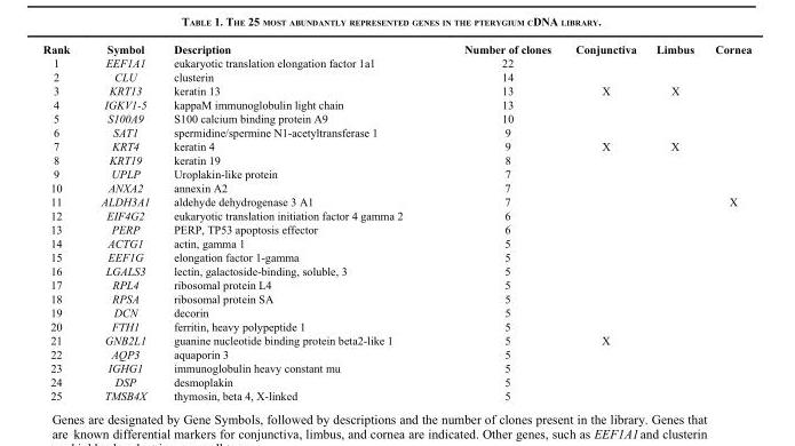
<table><thead><tr><td>Rank</td><td>Symbol</td><td>Description</td><td>Number of clones</td><td>Conjunctiva</td><td>Limbus</td><td>Cornea</td></tr></thead><tbody><tr><td>1</td><td>EEF1A1</td><td>eukaryotic translation elongation factor 1a1</td><td>22</td><td></td><td></td><td></td></tr><tr><td>2</td><td>CLU</td><td>clusterin</td><td>14</td><td></td><td></td><td></td></tr><tr><td>3</td><td>KRT13</td><td>keratin 13</td><td>13</td><td>X</td><td>X</td><td></td></tr><tr><td>4</td><td>IGKV1-5</td><td>kappaM immunoglobulin light chain</td><td>13</td><td></td><td></td><td></td></tr><tr><td>5</td><td>S100A9</td><td>S100 calcium binding protein A9</td><td>10</td><td></td><td></td><td></td></tr><tr><td>6</td><td>SAT1</td><td>spermidine/spermine N1-acetyltransferase 1</td><td>9</td><td></td><td></td><td></td></tr><tr><td>7</td><td>KRT4</td><td>keratin 4</td><td>9</td><td>X</td><td>X</td><td></td></tr><tr><td>8</td><td>KRT19</td><td>keratin 19</td><td>8</td><td></td><td></td><td></td></tr><tr><td>9</td><td>UPLP</td><td>Uroplakin-like protein</td><td>7</td><td></td><td></td><td></td></tr><tr><td>10</td><td>ANXA2</td><td>annexin A2</td><td>7</td><td></td><td></td><td></td></tr><tr><td>11</td><td>ALDH3A1</td><td>aldehyde dehydrogenase 3 A1</td><td>7</td><td></td><td></td><td>X</td></tr><tr><td>12</td><td>EIF4G2</td><td>eukaryotic translation initiation factor 4 gamma 2</td><td>6</td><td></td><td></td><td></td></tr><tr><td>13</td><td>PERP</td><td>PERP, TP53 apoptosis effector</td><td>6</td><td></td><td></td><td></td></tr><tr><td>14</td><td>ACTG1</td><td>actin, gamma 1</td><td>5</td><td></td><td></td><td></td></tr><tr><td>15</td><td>EEF1G</td><td>elongation factor 1-gamma</td><td>5</td><td></td><td></td><td></td></tr><tr><td>16</td><td>LGALS3</td><td>lectin, galactoside-binding, soluble, 3</td><td>5</td><td></td><td></td><td></td></tr><tr><td>17</td><td>RPL4</td><td>ribosomal protein L4</td><td>5</td><td></td><td></td><td></td></tr><tr><td>18</td><td>RPSA</td><td>ribosomal protein SA</td><td>5</td><td></td><td></td><td></td></tr><tr><td>19</td><td>DCN</td><td>decorin</td><td>5</td><td></td><td></td><td></td></tr><tr><td>20</td><td>FTH1</td><td>ferritin, heavy polypeptide 1</td><td>5</td><td></td><td></td><td></td></tr><tr><td>21</td><td>GNB2L1</td><td>guanine nucleotide binding protein beta2-like 1</td><td>5</td><td>X</td><td></td><td></td></tr><tr><td>22</td><td>AQP3</td><td>aquaporin 3</td><td>5</td><td></td><td></td><td></td></tr><tr><td>23</td><td>IGHG1</td><td>immunoglobulin heavy constant mu</td><td>5</td><td></td><td></td><td></td></tr><tr><td>24</td><td>DSP</td><td>desmoplakin</td><td>5</td><td></td><td></td><td></td></tr><tr><td>25</td><td>TMSB4X</td><td>thymosin, beta 4, X-linked</td><td>5</td><td></td><td></td><td></td></tr></tbody></table>